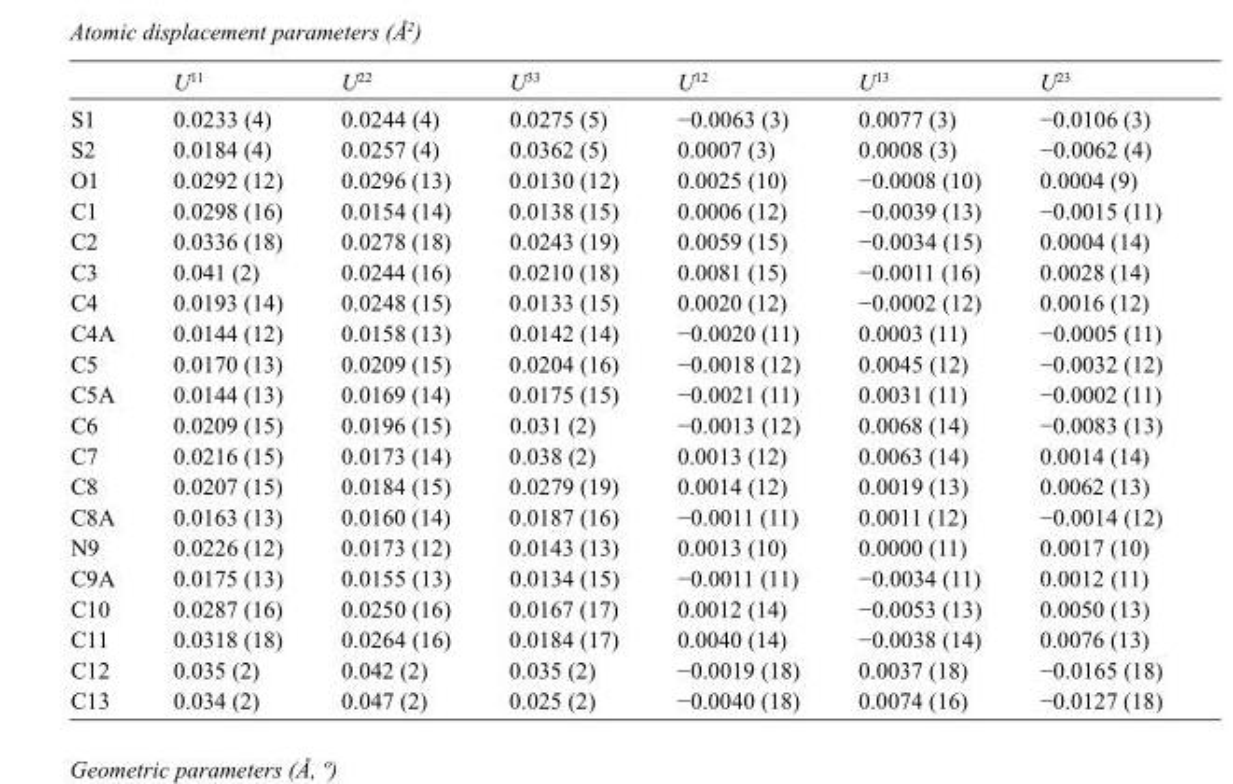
<table><thead><tr><td></td><td>U<sup>11</sup></td><td>U<sup>22</sup></td><td>U<sup>33</sup></td><td>U<sup>12</sup></td><td>U<sup>13</sup></td><td>U<sup>23</sup></td></tr></thead><tbody><tr><td>S1</td><td>0.0233 (4)</td><td>0.0244 (4)</td><td>0.0275 (5)</td><td>−0.0063 (3)</td><td>0.0077 (3)</td><td>−0.0106 (3)</td></tr><tr><td>S2</td><td>0.0184 (4)</td><td>0.0257 (4)</td><td>0.0362 (5)</td><td>0.0007 (3)</td><td>0.0008 (3)</td><td>−0.0062 (4)</td></tr><tr><td>O1</td><td>0.0292 (12)</td><td>0.0296 (13)</td><td>0.0130 (12)</td><td>0.0025 (10)</td><td>−0.0008 (10)</td><td>0.0004 (9)</td></tr><tr><td>C1</td><td>0.0298 (16)</td><td>0.0154 (14)</td><td>0.0138 (15)</td><td>0.0006 (12)</td><td>−0.0039 (13)</td><td>−0.0015 (11)</td></tr><tr><td>C2</td><td>0.0336 (18)</td><td>0.0278 (18)</td><td>0.0243 (19)</td><td>0.0059 (15)</td><td>−0.0034 (15)</td><td>0.0004 (14)</td></tr><tr><td>C3</td><td>0.041 (2)</td><td>0.0244 (16)</td><td>0.0210 (18)</td><td>0.0081 (15)</td><td>−0.0011 (16)</td><td>0.0028 (14)</td></tr><tr><td>C4</td><td>0.0193 (14)</td><td>0.0248 (15)</td><td>0.0133 (15)</td><td>0.0020 (12)</td><td>−0.0002 (12)</td><td>0.0016 (12)</td></tr><tr><td>C4A</td><td>0.0144 (12)</td><td>0.0158 (13)</td><td>0.0142 (14)</td><td>−0.0020 (11)</td><td>0.0003 (11)</td><td>−0.0005 (11)</td></tr><tr><td>C5</td><td>0.0170 (13)</td><td>0.0209 (15)</td><td>0.0204 (16)</td><td>−0.0018 (12)</td><td>0.0045 (12)</td><td>−0.0032 (12)</td></tr><tr><td>C5A</td><td>0.0144 (13)</td><td>0.0169 (14)</td><td>0.0175 (15)</td><td>−0.0021 (11)</td><td>0.0031 (11)</td><td>−0.0002 (11)</td></tr><tr><td>C6</td><td>0.0209 (15)</td><td>0.0196 (15)</td><td>0.031 (2)</td><td>−0.0013 (12)</td><td>0.0068 (14)</td><td>−0.0083 (13)</td></tr><tr><td>C7</td><td>0.0216 (15)</td><td>0.0173 (14)</td><td>0.038 (2)</td><td>0.0013 (12)</td><td>0.0063 (14)</td><td>0.0014 (14)</td></tr><tr><td>C8</td><td>0.0207 (15)</td><td>0.0184 (15)</td><td>0.0279 (19)</td><td>0.0014 (12)</td><td>0.0019 (13)</td><td>0.0062 (13)</td></tr><tr><td>C8A</td><td>0.0163 (13)</td><td>0.0160 (14)</td><td>0.0187 (16)</td><td>−0.0011 (11)</td><td>0.0011 (12)</td><td>−0.0014 (12)</td></tr><tr><td>N9</td><td>0.0226 (12)</td><td>0.0173 (12)</td><td>0.0143 (13)</td><td>0.0013 (10)</td><td>0.0000 (11)</td><td>0.0017 (10)</td></tr><tr><td>C9A</td><td>0.0175 (13)</td><td>0.0155 (13)</td><td>0.0134 (15)</td><td>−0.0011 (11)</td><td>−0.0034 (11)</td><td>0.0012 (11)</td></tr><tr><td>C10</td><td>0.0287 (16)</td><td>0.0250 (16)</td><td>0.0167 (17)</td><td>0.0012 (14)</td><td>−0.0053 (13)</td><td>0.0050 (13)</td></tr><tr><td>C11</td><td>0.0318 (18)</td><td>0.0264 (16)</td><td>0.0184 (17)</td><td>0.0040 (14)</td><td>−0.0038 (14)</td><td>0.0076 (13)</td></tr><tr><td>C12</td><td>0.035 (2)</td><td>0.042 (2)</td><td>0.035 (2)</td><td>−0.0019 (18)</td><td>0.0037 (18)</td><td>−0.0165 (18)</td></tr><tr><td>C13</td><td>0.034 (2)</td><td>0.047 (2)</td><td>0.025 (2)</td><td>−0.0040 (18)</td><td>0.0074 (16)</td><td>−0.0127 (18)</td></tr></tbody></table>